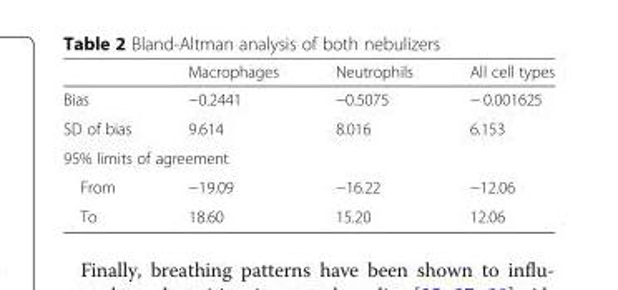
<table><thead><tr><td></td><td>Macrophages</td><td>Neutrophils</td><td>All cell types</td></tr></thead><tbody><tr><td>Bias</td><td>−0.2441</td><td>−0.5075</td><td>− 0.001625</td></tr><tr><td>SD of bias</td><td>9.614</td><td>8.016</td><td>6.153</td></tr><tr><td colspan="4">95% limits of agreement</td></tr><tr><td>From</td><td>−19.09</td><td>−16.22</td><td>−12.06</td></tr><tr><td>To</td><td>18.60</td><td>15.20</td><td>12.06</td></tr></tbody></table>